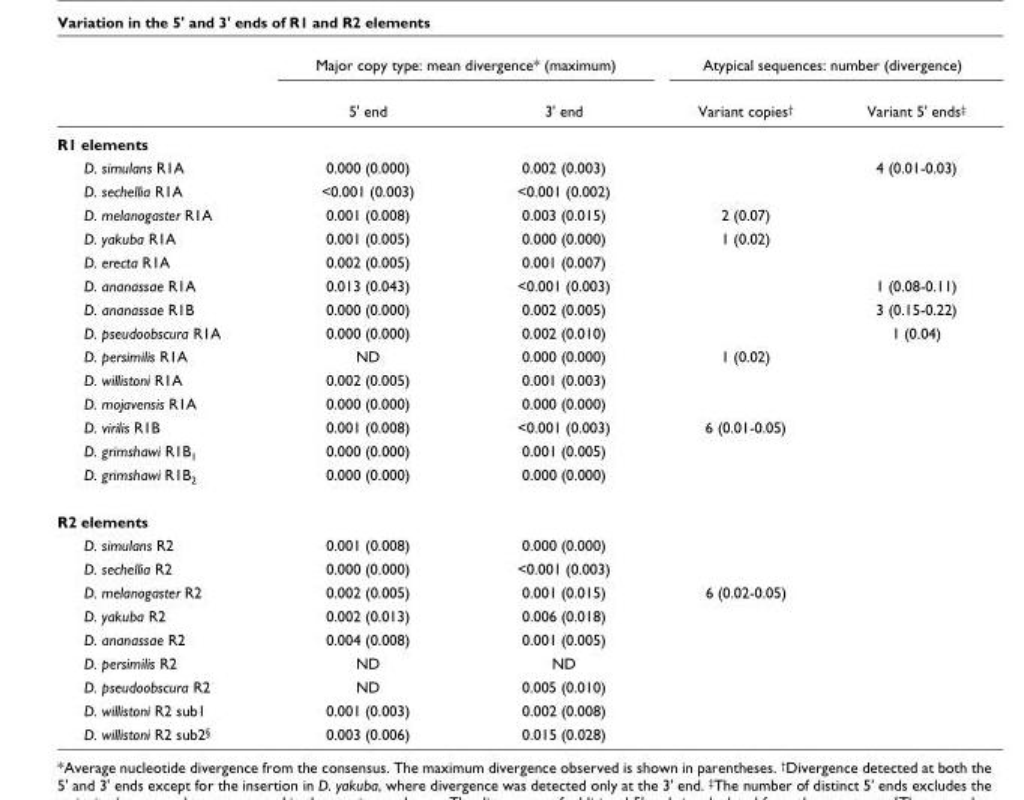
<table><thead><tr><td rowspan="2"></td><td colspan="2">Major copy type: mean divergence* (maximum)</td><td colspan="2">Atypical sequences: number (divergence)</td></tr><tr><td>5&#x27; end</td><td>3&#x27; end</td><td>Variant copies<sup>†</sup></td><td>Variant 5&#x27; ends<sup>‡</sup></td></tr></thead><tbody><tr><td colspan="5">R1 elements</td></tr><tr><td>D. simulans R1A</td><td>0.000 (0.000)</td><td>0.002 (0.003)</td><td></td><td>4 (0.01-0.03)</td></tr><tr><td>D. sechellia R1A</td><td>&lt;0.001 (0.003)</td><td>&lt;0.001 (0.002)</td><td></td><td></td></tr><tr><td>D. melanogaster R1A</td><td>0.001 (0.008)</td><td>0.003 (0.015)</td><td>2 (0.07)</td><td></td></tr><tr><td>D. yakuba R1A</td><td>0.001 (0.005)</td><td>0.000 (0.000)</td><td>1 (0.02)</td><td></td></tr><tr><td>D. erecta R1A</td><td>0.002 (0.005)</td><td>0.001 (0.007)</td><td></td><td></td></tr><tr><td>D. ananassae R1A</td><td>0.013 (0.043)</td><td>&lt;0.001 (0.003)</td><td></td><td>1 (0.08-0.11)</td></tr><tr><td>D. ananassae R1B</td><td>0.000 (0.000)</td><td>0.002 (0.005)</td><td></td><td>3 (0.15-0.22)</td></tr><tr><td>D. pseudoobscura R1A</td><td>0.000 (0.000)</td><td>0.002 (0.010)</td><td></td><td>1 (0.04)</td></tr><tr><td>D. persimilis R1A</td><td>ND</td><td>0.000 (0.000)</td><td>1 (0.02)</td><td></td></tr><tr><td>D. willistoni R1A</td><td>0.002 (0.005)</td><td>0.001 (0.003)</td><td></td><td></td></tr><tr><td>D. mojavensis R1A</td><td>0.000 (0.000)</td><td>0.000 (0.000)</td><td></td><td></td></tr><tr><td>D. virilis R1B</td><td>0.001 (0.008)</td><td>&lt;0.001 (0.003)</td><td>6 (0.01-0.05)</td><td></td></tr><tr><td>D. grimshawi R1B<sub>1</sub></td><td>0.000 (0.000)</td><td>0.001 (0.005)</td><td></td><td></td></tr><tr><td>D. grimshawi R1B<sub>2</sub></td><td>0.000 (0.000)</td><td>0.000 (0.000)</td><td></td><td></td></tr><tr><td colspan="5">R2 elements</td></tr><tr><td>D. simulans R2</td><td>0.001 (0.008)</td><td>0.000 (0.000)</td><td></td><td></td></tr><tr><td>D. sechellia R2</td><td>0.000 (0.000)</td><td>&lt;0.001 (0.003)</td><td></td><td></td></tr><tr><td>D. melanogaster R2</td><td>0.002 (0.005)</td><td>0.001 (0.015)</td><td>6 (0.02-0.05)</td><td></td></tr><tr><td>D. yakuba R2</td><td>0.002 (0.013)</td><td>0.006 (0.018)</td><td></td><td></td></tr><tr><td>D. ananassae R2</td><td>0.004 (0.008)</td><td>0.001 (0.005)</td><td></td><td></td></tr><tr><td>D. persimilis R2</td><td>ND</td><td>ND</td><td></td><td></td></tr><tr><td>D. pseudoobscura R2</td><td>ND</td><td>0.005 (0.010)</td><td></td><td></td></tr><tr><td>D. willistoni R2 sub1</td><td>0.001 (0.003)</td><td>0.002 (0.008)</td><td></td><td></td></tr><tr><td>D. willistoni R2 sub2<sup>§</sup></td><td>0.003 (0.006)</td><td>0.015 (0.028)</td><td></td><td></td></tr></tbody></table>